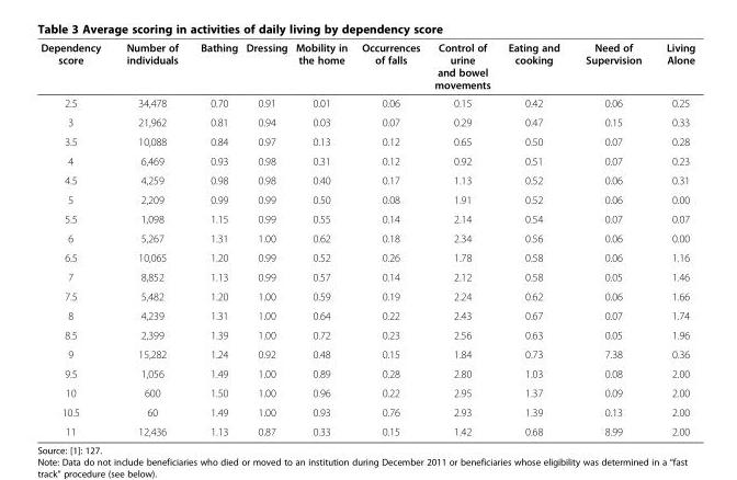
<table><thead><tr><td>Dependency score</td><td>Number of individuals</td><td>Bathing</td><td>Dressing</td><td>Mobility in the home</td><td>Occurrences of falls</td><td>Control of urine and bowel movements</td><td>Eating and cooking</td><td>Need of Supervision</td><td>Living Alone</td></tr></thead><tbody><tr><td>2.5</td><td>34,478</td><td>0.70</td><td>0.91</td><td>0.01</td><td>0.06</td><td>0.15</td><td>0.42</td><td>0.06</td><td>0.25</td></tr><tr><td>3</td><td>21,962</td><td>0.81</td><td>0.94</td><td>0.03</td><td>0.07</td><td>0.29</td><td>0.47</td><td>0.15</td><td>0.33</td></tr><tr><td>3.5</td><td>10,088</td><td>0.84</td><td>0.97</td><td>0.13</td><td>0.12</td><td>0.65</td><td>0.50</td><td>0.07</td><td>0.28</td></tr><tr><td>4</td><td>6,469</td><td>0.93</td><td>0.98</td><td>0.31</td><td>0.12</td><td>0.92</td><td>0.51</td><td>0.07</td><td>0.23</td></tr><tr><td>4.5</td><td>4,259</td><td>0.98</td><td>0.98</td><td>0.40</td><td>0.17</td><td>1.13</td><td>0.52</td><td>0.06</td><td>0.31</td></tr><tr><td>5</td><td>2,209</td><td>0.99</td><td>0.99</td><td>0.50</td><td>0.08</td><td>1.91</td><td>0.52</td><td>0.06</td><td>0.00</td></tr><tr><td>5.5</td><td>1,098</td><td>1.15</td><td>0.99</td><td>0.55</td><td>0.14</td><td>2.14</td><td>0.54</td><td>0.07</td><td>0.07</td></tr><tr><td>6</td><td>5,267</td><td>1.31</td><td>1.00</td><td>0.62</td><td>0.18</td><td>2.34</td><td>0.56</td><td>0.06</td><td>0.00</td></tr><tr><td>6.5</td><td>10,065</td><td>1.20</td><td>0.99</td><td>0.52</td><td>0.26</td><td>1.78</td><td>0.58</td><td>0.06</td><td>1.16</td></tr><tr><td>7</td><td>8,852</td><td>1.13</td><td>0.99</td><td>0.57</td><td>0.14</td><td>2.12</td><td>0.58</td><td>0.05</td><td>1.46</td></tr><tr><td>7.5</td><td>5,482</td><td>1.20</td><td>1.00</td><td>0.59</td><td>0.19</td><td>2.24</td><td>0.62</td><td>0.06</td><td>1.66</td></tr><tr><td>8</td><td>4,239</td><td>1.31</td><td>1.00</td><td>0.64</td><td>0.22</td><td>2.43</td><td>0.67</td><td>0.07</td><td>1.74</td></tr><tr><td>8.5</td><td>2,399</td><td>1.39</td><td>1.00</td><td>0.72</td><td>0.23</td><td>2.56</td><td>0.63</td><td>0.05</td><td>1.96</td></tr><tr><td>9</td><td>15,282</td><td>1.24</td><td>0.92</td><td>0.48</td><td>0.15</td><td>1.84</td><td>0.73</td><td>7.38</td><td>0.36</td></tr><tr><td>9.5</td><td>1,056</td><td>1.49</td><td>1.00</td><td>0.89</td><td>0.28</td><td>2.80</td><td>1.03</td><td>0.08</td><td>2.00</td></tr><tr><td>10</td><td>600</td><td>1.50</td><td>1.00</td><td>0.96</td><td>0.22</td><td>2.95</td><td>1.37</td><td>0.09</td><td>2.00</td></tr><tr><td>10.5</td><td>60</td><td>1.49</td><td>1.00</td><td>0.93</td><td>0.76</td><td>2.93</td><td>1.39</td><td>0.13</td><td>2.00</td></tr><tr><td>11</td><td>12,436</td><td>1.13</td><td>0.87</td><td>0.33</td><td>0.15</td><td>1.42</td><td>0.68</td><td>8.99</td><td>2.00</td></tr></tbody></table>